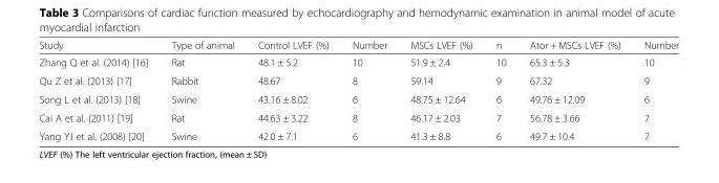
<table><thead><tr><td>Study</td><td>Type of animal</td><td>Control LVEF (%)</td><td>Number</td><td>MSCs LVEF (%)</td><td>n</td><td>Ator + MSCs LVEF (%)</td><td>Number</td></tr></thead><tbody><tr><td>Zhang Q et al. (2014) [16]</td><td>Rat</td><td>48.1 ± 5.2</td><td>10</td><td>51.9 ± 2.4</td><td>10</td><td>65.3 ± 5.3</td><td>10</td></tr><tr><td>Qu Z et al. (2013) [17]</td><td>Rabbit</td><td>48.67</td><td>8</td><td>59.14</td><td>9</td><td>67.32</td><td>9</td></tr><tr><td>Song L et al. (2013) [18]</td><td>Swine</td><td>43.16 ± 8.02</td><td>6</td><td>48.75 ± 12.64</td><td>6</td><td>49.76 ± 12.09</td><td>6</td></tr><tr><td>Cai A et al. (2011) [19]</td><td>Rat</td><td>44.63 ± 3.22</td><td>8</td><td>46.17 ± 2.03</td><td>7</td><td>56.78 ± 3.66</td><td>7</td></tr><tr><td>Yang YJ et al. (2008) [20]</td><td>Swine</td><td>42.0 ± 7.1</td><td>6</td><td>41.3 ± 8.8</td><td>6</td><td>49.7 ± 10.4</td><td>7</td></tr></tbody></table>